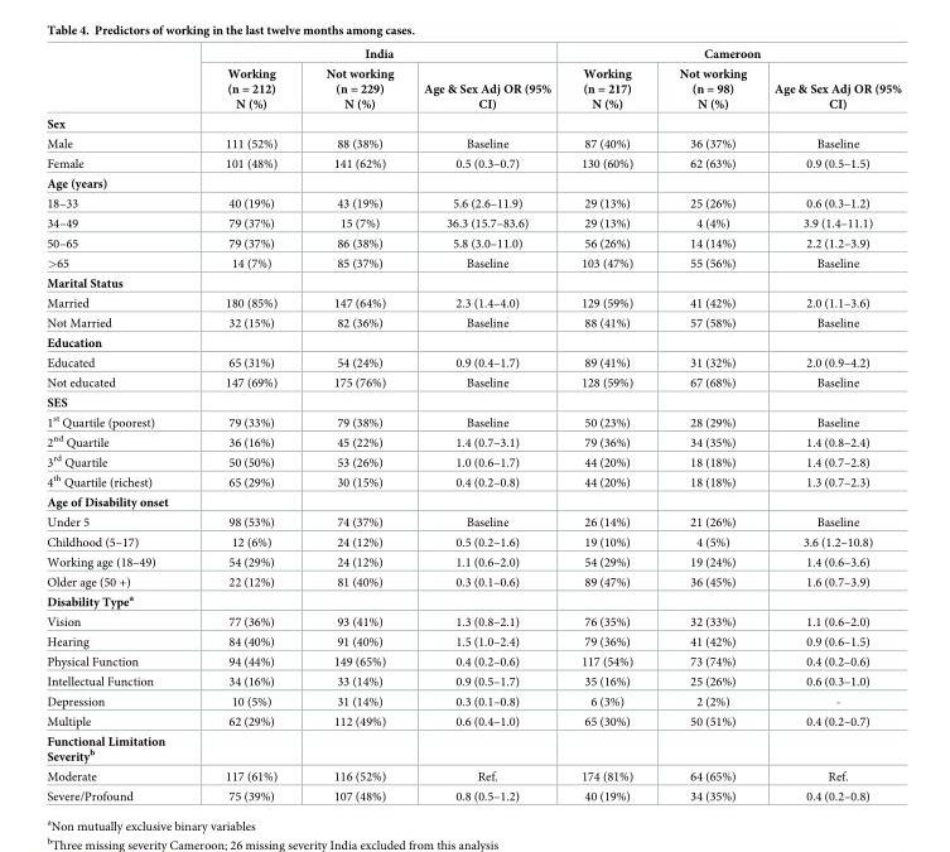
<table><thead><tr><td rowspan="2"></td><td colspan="3">India</td><td colspan="3">Cameroon</td></tr><tr><td>Working (n = 212) N (%)</td><td>Not working (n = 229) N (%)</td><td>Age &amp; Sex Adj OR (95% CI)</td><td>Working (n = 217) N (%)</td><td>Not working (n = 98) N (%)</td><td>Age &amp; Sex Adj OR (95% CI)</td></tr></thead><tbody><tr><td colspan="7">Sex</td></tr><tr><td>Male</td><td>111 (52%)</td><td>88 (38%)</td><td>Baseline</td><td>87 (40%)</td><td>36 (37%)</td><td>Baseline</td></tr><tr><td>Female</td><td>101 (48%)</td><td>141 (62%)</td><td>0.5 (0.3–0.7)</td><td>130 (60%)</td><td>62 (63%)</td><td>0.9 (0.5–1.5)</td></tr><tr><td colspan="7">Age (years)</td></tr><tr><td>18–33</td><td>40 (19%)</td><td>43 (19%)</td><td>5.6 (2.6–11.9)</td><td>29 (13%)</td><td>25 (26%)</td><td>0.6 (0.3–1.2)</td></tr><tr><td>34–49</td><td>79 (37%)</td><td>15 (7%)</td><td>36.3 (15.7–83.6)</td><td>29 (13%)</td><td>4 (4%)</td><td>3.9 (1.4–11.1)</td></tr><tr><td>50–65</td><td>79 (37%)</td><td>86 (38%)</td><td>5.8 (3.0–11.0)</td><td>56 (26%)</td><td>14 (14%)</td><td>2.2 (1.2–3.9)</td></tr><tr><td>&gt;65</td><td>14 (7%)</td><td>85 (37%)</td><td>Baseline</td><td>103 (47%)</td><td>55 (56%)</td><td>Baseline</td></tr><tr><td colspan="7">Marital Status</td></tr><tr><td>Married</td><td>180 (85%)</td><td>147 (64%)</td><td>2.3 (1.4–4.0)</td><td>129 (59%)</td><td>41 (42%)</td><td>2.0 (1.1–3.6)</td></tr><tr><td>Not Married</td><td>32 (15%)</td><td>82 (36%)</td><td>Baseline</td><td>88 (41%)</td><td>57 (58%)</td><td>Baseline</td></tr><tr><td colspan="7">Education</td></tr><tr><td>Educated</td><td>65 (31%)</td><td>54 (24%)</td><td>0.9 (0.4–1.7)</td><td>89 (41%)</td><td>31 (32%)</td><td>2.0 (0.9–4.2)</td></tr><tr><td>Not educated</td><td>147 (69%)</td><td>175 (76%)</td><td>Baseline</td><td>128 (59%)</td><td>67 (68%)</td><td>Baseline</td></tr><tr><td colspan="7">SES</td></tr><tr><td>1<sup>st</sup> Quartile (poorest)</td><td>79 (33%)</td><td>79 (38%)</td><td>Baseline</td><td>50 (23%)</td><td>28 (29%)</td><td>Baseline</td></tr><tr><td>2<sup>nd</sup> Quartile</td><td>36 (16%)</td><td>45 (22%)</td><td>1.4 (0.7–3.1)</td><td>79 (36%)</td><td>34 (35%)</td><td>1.4 (0.8–2.4)</td></tr><tr><td>3<sup>rd</sup> Quartile</td><td>50 (50%)</td><td>53 (26%)</td><td>1.0 (0.6–1.7)</td><td>44 (20%)</td><td>18 (18%)</td><td>1.4 (0.7–2.8)</td></tr><tr><td>4<sup>th</sup> Quartile (richest)</td><td>65 (29%)</td><td>30 (15%)</td><td>0.4 (0.2–0.8)</td><td>44 (20%)</td><td>18 (18%)</td><td>1.3 (0.7–2.3)</td></tr><tr><td colspan="7">Age of Disability onset</td></tr><tr><td>Under 5</td><td>98 (53%)</td><td>74 (37%)</td><td>Baseline</td><td>26 (14%)</td><td>21 (26%)</td><td>Baseline</td></tr><tr><td>Childhood (5–17)</td><td>12 (6%)</td><td>24 (12%)</td><td>0.5 (0.2–1.6)</td><td>19 (10%)</td><td>4 (5%)</td><td>3.6 (1.2–10.8)</td></tr><tr><td>Working age (18–49)</td><td>54 (29%)</td><td>24 (12%)</td><td>1.1 (0.6–2.0)</td><td>54 (29%)</td><td>19 (24%)</td><td>1.4 (0.6–3.6)</td></tr><tr><td>Older age (50 +)</td><td>22 (12%)</td><td>81 (40%)</td><td>0.3 (0.1–0.6)</td><td>89 (47%)</td><td>36 (45%)</td><td>1.6 (0.7–3.9)</td></tr><tr><td colspan="7">Disability Type<sup>a</sup></td></tr><tr><td>Vision</td><td>77 (36%)</td><td>93 (41%)</td><td>1.3 (0.8–2.1)</td><td>76 (35%)</td><td>32 (33%)</td><td>1.1 (0.6–2.0)</td></tr><tr><td>Hearing</td><td>84 (40%)</td><td>91 (40%)</td><td>1.5 (1.0–2.4)</td><td>79 (36%)</td><td>41 (42%)</td><td>0.9 (0.6–1.5)</td></tr><tr><td>Physical Function</td><td>94 (44%)</td><td>149 (65%)</td><td>0.4 (0.2–0.6)</td><td>117 (54%)</td><td>73 (74%)</td><td>0.4 (0.2–0.6)</td></tr><tr><td>Intellectual Function</td><td>34 (16%)</td><td>33 (14%)</td><td>0.9 (0.5–1.7)</td><td>35 (16%)</td><td>25 (26%)</td><td>0.6 (0.3–1.0)</td></tr><tr><td>Depression</td><td>10 (5%)</td><td>31 (14%)</td><td>0.3 (0.1–0.8)</td><td>6 (3%)</td><td>2 (2%)</td><td>-</td></tr><tr><td>Multiple</td><td>62 (29%)</td><td>112 (49%)</td><td>0.6 (0.4–1.0)</td><td>65 (30%)</td><td>50 (51%)</td><td>0.4 (0.2–0.7)</td></tr><tr><td colspan="7">Functional Limitation Severity<sup>b</sup></td></tr><tr><td>Moderate</td><td>117 (61%)</td><td>116 (52%)</td><td>Ref.</td><td>174 (81%)</td><td>64 (65%)</td><td>Ref.</td></tr><tr><td>Severe/Profound</td><td>75 (39%)</td><td>107 (48%)</td><td>0.8 (0.5–1.2)</td><td>40 (19%)</td><td>34 (35%)</td><td>0.4 (0.2–0.8)</td></tr></tbody></table>